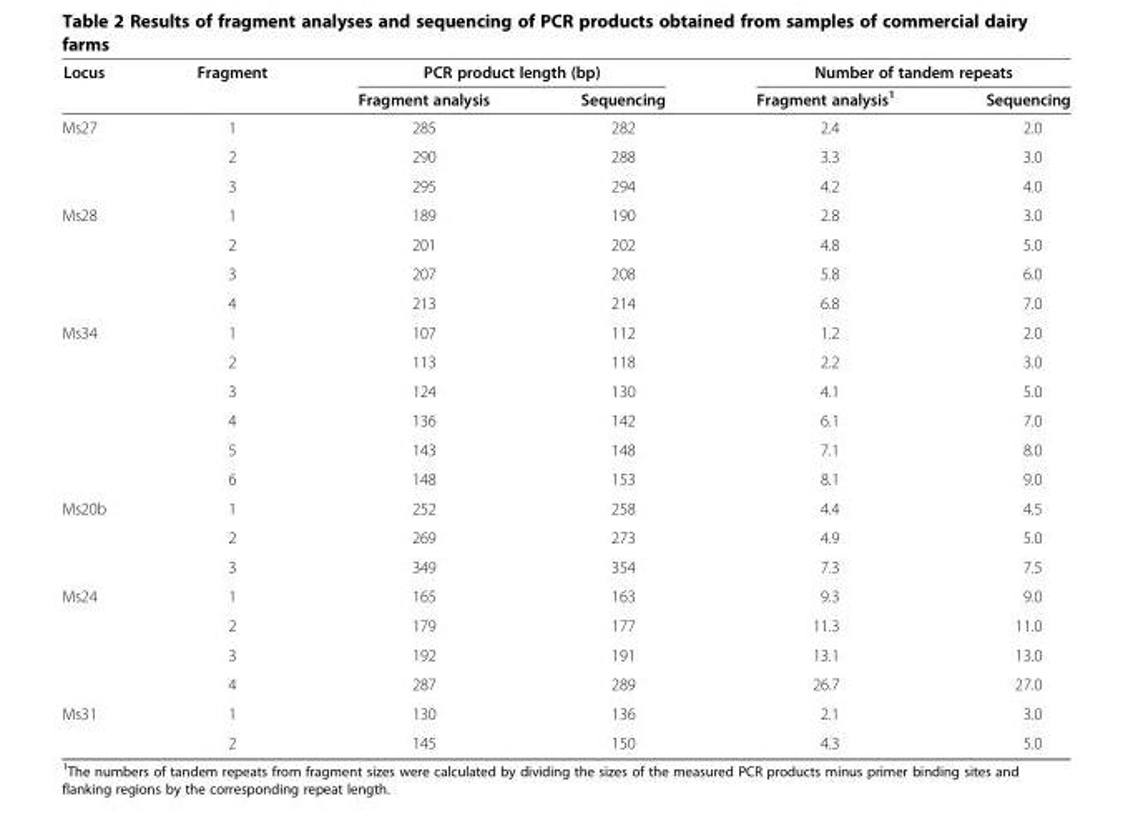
<table><thead><tr><td rowspan="2">Locus</td><td rowspan="2">Fragment</td><td colspan="2">PCR product length (bp)</td><td colspan="2">Number of tandem repeats</td></tr><tr><td>Fragment analysis</td><td>Sequencing</td><td>Fragment analysis<sup>1</sup></td><td>Sequencing</td></tr></thead><tbody><tr><td rowspan="3">Ms27</td><td>1</td><td>285</td><td>282</td><td>2.4</td><td>2.0</td></tr><tr><td>2</td><td>290</td><td>288</td><td>3.3</td><td>3.0</td></tr><tr><td>3</td><td>295</td><td>294</td><td>4.2</td><td>4.0</td></tr><tr><td rowspan="4">Ms28</td><td>1</td><td>189</td><td>190</td><td>2.8</td><td>3.0</td></tr><tr><td>2</td><td>201</td><td>202</td><td>4.8</td><td>5.0</td></tr><tr><td>3</td><td>207</td><td>208</td><td>5.8</td><td>6.0</td></tr><tr><td>4</td><td>213</td><td>214</td><td>6.8</td><td>7.0</td></tr><tr><td rowspan="6">Ms34</td><td>1</td><td>107</td><td>112</td><td>1.2</td><td>2.0</td></tr><tr><td>2</td><td>113</td><td>118</td><td>2.2</td><td>3.0</td></tr><tr><td>3</td><td>124</td><td>130</td><td>4.1</td><td>5.0</td></tr><tr><td>4</td><td>136</td><td>142</td><td>6.1</td><td>7.0</td></tr><tr><td>5</td><td>143</td><td>148</td><td>7.1</td><td>8.0</td></tr><tr><td>6</td><td>148</td><td>153</td><td>8.1</td><td>9.0</td></tr><tr><td rowspan="3">Ms20b</td><td>1</td><td>252</td><td>258</td><td>4.4</td><td>4.5</td></tr><tr><td>2</td><td>269</td><td>273</td><td>4.9</td><td>5.0</td></tr><tr><td>3</td><td>349</td><td>354</td><td>7.3</td><td>7.5</td></tr><tr><td rowspan="4">Ms24</td><td>1</td><td>165</td><td>163</td><td>9.3</td><td>9.0</td></tr><tr><td>2</td><td>179</td><td>177</td><td>11.3</td><td>11.0</td></tr><tr><td>3</td><td>192</td><td>191</td><td>13.1</td><td>13.0</td></tr><tr><td>4</td><td>287</td><td>289</td><td>26.7</td><td>27.0</td></tr><tr><td rowspan="2">Ms31</td><td>1</td><td>130</td><td>136</td><td>2.1</td><td>3.0</td></tr><tr><td>2</td><td>145</td><td>150</td><td>4.3</td><td>5.0</td></tr></tbody></table>